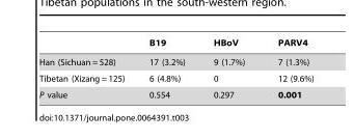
<table><thead><tr><td></td><td>B19</td><td>HBoV</td><td>PARV4</td></tr></thead><tbody><tr><td>Han (Sichuan = 528)</td><td>17 (3.2%)</td><td>9 (1.7%)</td><td>7 (1.3%)</td></tr><tr><td>Tibetan (Xizang = 125)</td><td>6 (4.8%)</td><td>0</td><td>12 (9.6%)</td></tr><tr><td>P value</td><td>0.554</td><td>0.297</td><td>0.001</td></tr></tbody></table>